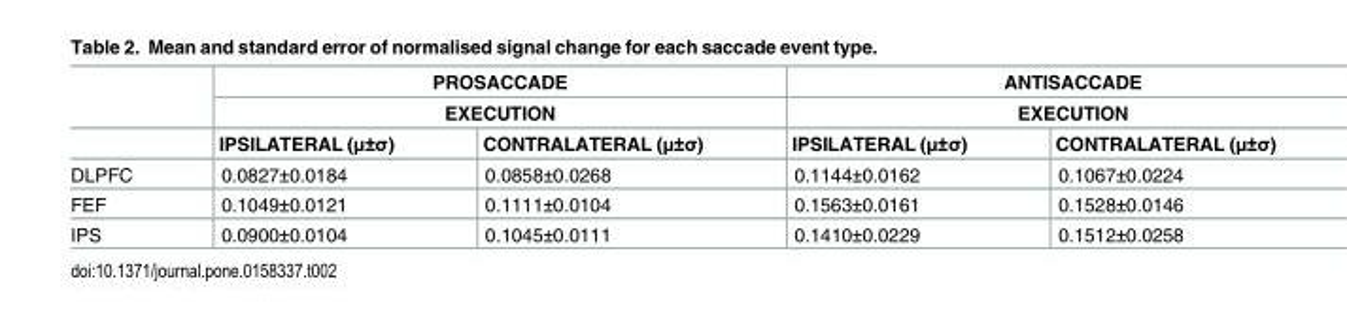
<table><thead><tr><td rowspan="3"></td><td rowspan="2" colspan="2">PROSACCADE EXECUTION</td><td rowspan="2" colspan="2">ANTISACCADE EXECUTION</td></tr><tr></tr><tr><td>IPSILATERAL (μ±σ)</td><td>CONTRALATERAL (μ±σ)</td><td>IPSILATERAL (μ±σ)</td><td>CONTRALATERAL (μ±σ)</td></tr></thead><tbody><tr><td>DLPFC</td><td>0.0827±0.0184</td><td>0.0858±0.0268</td><td>0.1144±0.0162</td><td>0.1067±0.0224</td></tr><tr><td>FEF</td><td>0.1049±0.0121</td><td>0.1111±0.0104</td><td>0.1563±0.0161</td><td>0.1528±0.0146</td></tr><tr><td>IPS</td><td>0.0900±0.0104</td><td>0.1045±0.0111</td><td>0.1410±0.0229</td><td>0.1512±0.0258</td></tr></tbody></table>